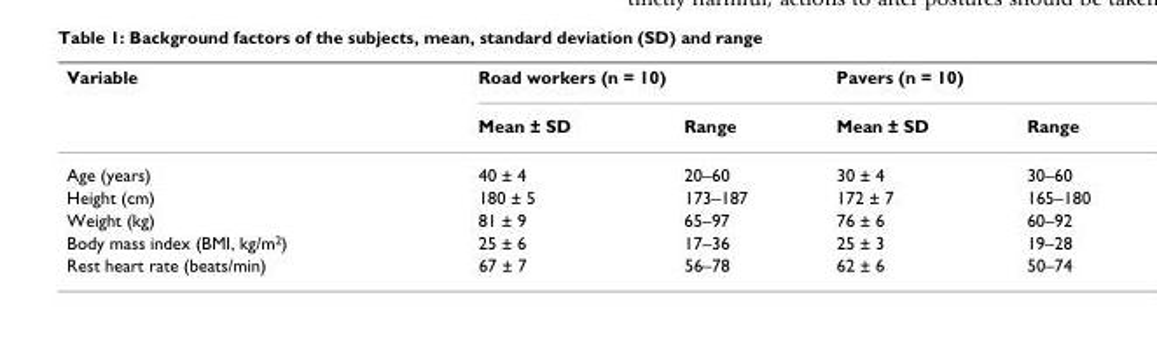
<table><thead><tr><td rowspan="2">Variable</td><td colspan="2">Road workers (n = 10)</td><td colspan="2">Pavers (n = 10)</td></tr><tr><td>Mean ± SD</td><td>Range</td><td>Mean ± SD</td><td>Range</td></tr></thead><tbody><tr><td>Age (years)</td><td>40 ± 4</td><td>20–60</td><td>30 ± 4</td><td>30–60</td></tr><tr><td>Height (cm)</td><td>180 ± 5</td><td>173–187</td><td>172 ± 7</td><td>165–180</td></tr><tr><td>Weight (kg)</td><td>81 ± 9</td><td>65–97</td><td>76 ± 6</td><td>60–92</td></tr><tr><td>Body mass index (BMI, kg/m<sup>2</sup>)</td><td>25 ± 6</td><td>17–36</td><td>25 ± 3</td><td>19–28</td></tr><tr><td>Rest heart rate (beats/min)</td><td>67 ± 7</td><td>56–78</td><td>62 ± 6</td><td>50–74</td></tr></tbody></table>